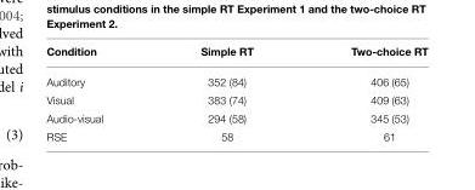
<table><thead><tr><td>Condition</td><td>Simple RT</td><td>Two-choice RT</td></tr></thead><tbody><tr><td>Auditory</td><td>352 (84)</td><td>406 (65)</td></tr><tr><td>Visual</td><td>383 (74)</td><td>409 (63)</td></tr><tr><td>Audio-visual</td><td>294 (58)</td><td>345 (53)</td></tr><tr><td>RSE</td><td>58</td><td>61</td></tr></tbody></table>